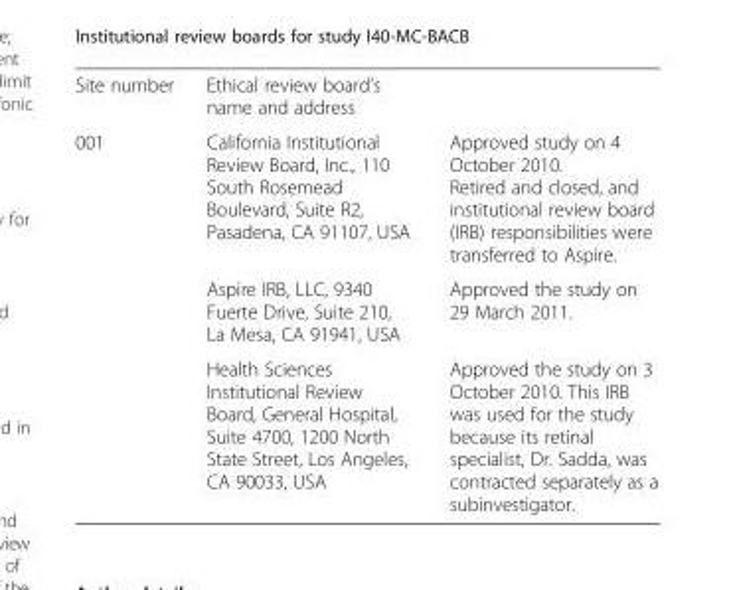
<table><tbody><tr><td>Site number</td><td>Ethical review board’s name and address</td><td></td></tr><tr><td rowspan="3">001</td><td>California Institutional Review Board, Inc., 110 South Rosemead Boulevard, Suite R2, Pasadena, CA 91107, USA</td><td>Approved study on 4 October 2010. Retired and closed, and institutional review board (IRB) responsibilities were transferred to Aspire.</td></tr><tr><td>Aspire IRB, LLC, 9340 Fuerte Drive, Suite 210, La Mesa, CA 91941, USA</td><td>Approved the study on 29 March 2011.</td></tr><tr><td>Health Sciences Institutional Review Board, General Hospital, Suite 4700, 1200 North State Street, Los Angeles, CA 90033, USA</td><td>Approved the study on 3 October 2010. This IRB was used for the study because its retinal specialist, Dr. Sadda, was contracted separately as a subinvestigator.</td></tr></tbody></table>